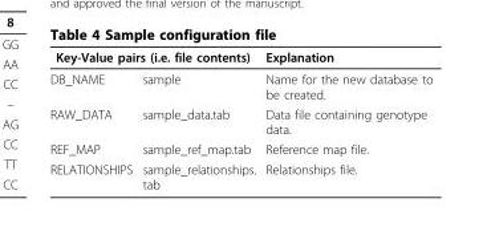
<table><thead><tr><td colspan="2">Key-Value pairs (i.e. file contents)</td><td rowspan="2">Explanation Name for the new database to be created.</td></tr><tr><td>DB_NAME</td><td>sample</td></tr></thead><tbody><tr><td>RAW_DATA</td><td>sample_data.tab</td><td>Data file containing genotype data.</td></tr><tr><td>REF_MAP</td><td>sample_ref_map.tab</td><td>Reference map file.</td></tr><tr><td>RELATIONSHIPS</td><td>sample_relationships. tab</td><td>Relationships file.</td></tr></tbody></table>